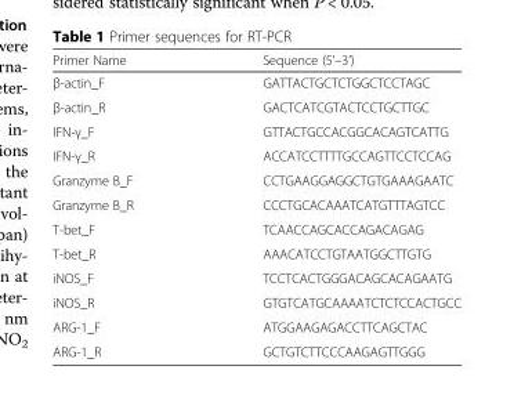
<table><thead><tr><td>Primer Name</td><td>Sequence (5’–3’)</td></tr></thead><tbody><tr><td>β-actin_F</td><td>GATTACTGCTCTGGCTCCTAGC</td></tr><tr><td>β-actin_R</td><td>GACTCATCGTACTCCTGCTTGC</td></tr><tr><td>IFN-γ_F</td><td>GTTACTGCCACGGCACAGTCATTG</td></tr><tr><td>IFN-γ_R</td><td>ACCATCCTTTTGCCAGTTCCTCCAG</td></tr><tr><td>Granzyme B_F</td><td>CCTGAAGGAGGCTGTGAAAGAATC</td></tr><tr><td>Granzyme B_R</td><td>CCCTGCACAAATCATGTTTAGTCC</td></tr><tr><td>T-bet_F</td><td>TCAACCAGCACCAGACAGAG</td></tr><tr><td>T-bet_R</td><td>AAACATCCTGTAATGGCTTGTG</td></tr><tr><td>iNOS_F</td><td>TCCTCACTGGGACAGCACAGAATG</td></tr><tr><td>iNOS_R</td><td>GTGTCATGCAAAATCTCTCCACTGCC</td></tr><tr><td>ARG-1_F</td><td>ATGGAAGAGACCTTCAGCTAC</td></tr><tr><td>ARG-1_R</td><td>GCTGTCTTCCCAAGAGTTGGG</td></tr></tbody></table>